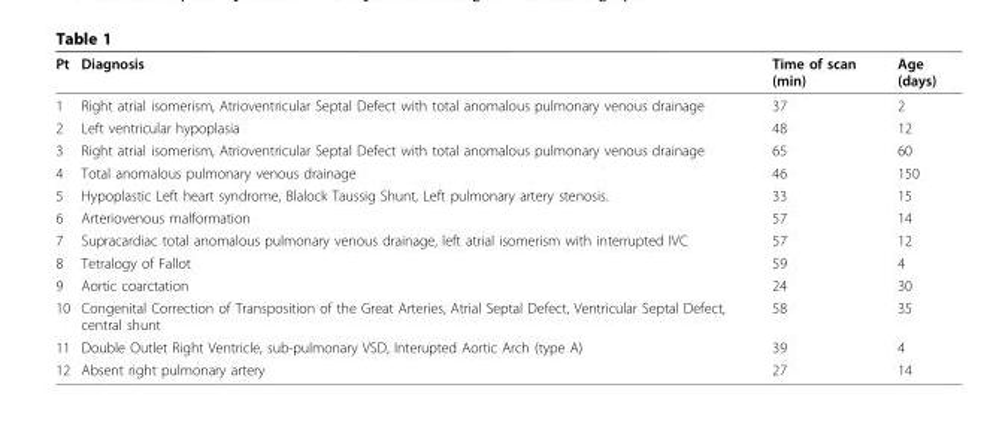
<table><thead><tr><td>Pt</td><td>Diagnosis</td><td>Time of scan (min)</td><td>Age (days)</td></tr></thead><tbody><tr><td>1</td><td>Right atrial isomerism, Atrioventricular Septal Defect with total anomalous pulmonary venous drainage</td><td>37</td><td>2</td></tr><tr><td>2</td><td>Left ventricular hypoplasia</td><td>48</td><td>12</td></tr><tr><td>3</td><td>Right atrial isomerism, Atrioventricular Septal Defect with total anomalous pulmonary venous drainage</td><td>65</td><td>60</td></tr><tr><td>4</td><td>Total anomalous pulmonary venous drainage</td><td>46</td><td>150</td></tr><tr><td>5</td><td>Hypoplastic Left heart syndrome, Blalock Taussig Shunt, Left pulmonary artery stenosis.</td><td>33</td><td>15</td></tr><tr><td>6</td><td>Arteriovenous malformation</td><td>57</td><td>14</td></tr><tr><td>7</td><td>Supracardiac total anomalous pulmonary venous drainage, left atrial isomerism with interrupted IVC</td><td>57</td><td>12</td></tr><tr><td>8</td><td>Tetralogy of Fallot</td><td>59</td><td>4</td></tr><tr><td>9</td><td>Aortic coarctation</td><td>24</td><td>30</td></tr><tr><td>10</td><td>Congenital Correction of Transposition of the Great Arteries, Atrial Septal Defect, Ventricular Septal Defect, central shunt</td><td>58</td><td>35</td></tr><tr><td>11</td><td>Double Outlet Right Ventricle, sub-pulmonary VSD, Interupted Aortic Arch (type A)</td><td>39</td><td>4</td></tr><tr><td>12</td><td>Absent right pulmonary artery</td><td>27</td><td>14</td></tr></tbody></table>